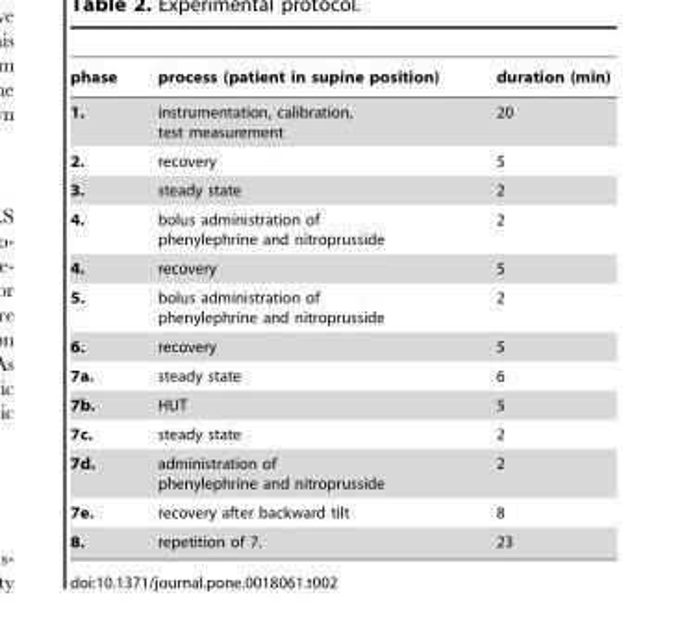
<table><thead><tr><td>phase</td><td>process (patient in supine position)</td><td>duration (min)</td></tr></thead><tbody><tr><td>1.</td><td>instrumentation, calibration, test measurement</td><td>20</td></tr><tr><td>2.</td><td>recovery</td><td>5</td></tr><tr><td>3.</td><td>steady state</td><td>2</td></tr><tr><td>4.</td><td>bolus administration of phenylephrine and nitroprusside</td><td>2</td></tr><tr><td>4.</td><td>recovery</td><td>5</td></tr><tr><td>5.</td><td>bolus administration of phenylephrine and nitroprusside</td><td>2</td></tr><tr><td>6.</td><td>recovery</td><td>5</td></tr><tr><td>7a.</td><td>steady state</td><td>6</td></tr><tr><td>7b.</td><td>HUT</td><td>5</td></tr><tr><td>7c.</td><td>steady state</td><td>2</td></tr><tr><td>7d.</td><td>administration of phenylephrine and nitroprusside</td><td>2</td></tr><tr><td>7e.</td><td>recovery after backward tilt</td><td>8</td></tr><tr><td>8.</td><td>repetition of 7.</td><td>23</td></tr></tbody></table>